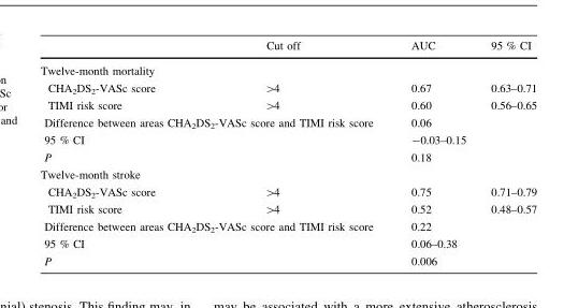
<table><thead><tr><td></td><td>Cut off</td><td>AUC</td><td>95 % CI</td></tr></thead><tbody><tr><td colspan="4">Twelve-month mortality</td></tr><tr><td>CHA<sub>2</sub>DS<sub>2</sub>-VASc score</td><td>&gt;4</td><td>0.67</td><td>0.63–0.71</td></tr><tr><td>TIMI risk score</td><td>&gt;4</td><td>0.60</td><td>0.56–0.65</td></tr><tr><td colspan="2">Difference between areas CHA<sub>2</sub>DS<sub>2</sub>-VASc score and TIMI risk score</td><td>0.06</td><td></td></tr><tr><td colspan="2">95 % CI</td><td>-0.03–0.15</td><td></td></tr><tr><td colspan="2">P</td><td>0.18</td><td></td></tr><tr><td colspan="4">Twelve-month stroke</td></tr><tr><td>CHA<sub>2</sub>DS<sub>2</sub>-VASc score</td><td>&gt;4</td><td>0.75</td><td>0.71–0.79</td></tr><tr><td>TIMI risk score</td><td>&gt;4</td><td>0.52</td><td>0.48–0.57</td></tr><tr><td colspan="2">Difference between areas CHA<sub>2</sub>DS<sub>2</sub>-VASc score and TIMI risk score</td><td>0.22</td><td></td></tr><tr><td colspan="2">95 % CI</td><td>0.06–0.38</td><td></td></tr><tr><td colspan="2">P</td><td>0.006</td><td></td></tr></tbody></table>